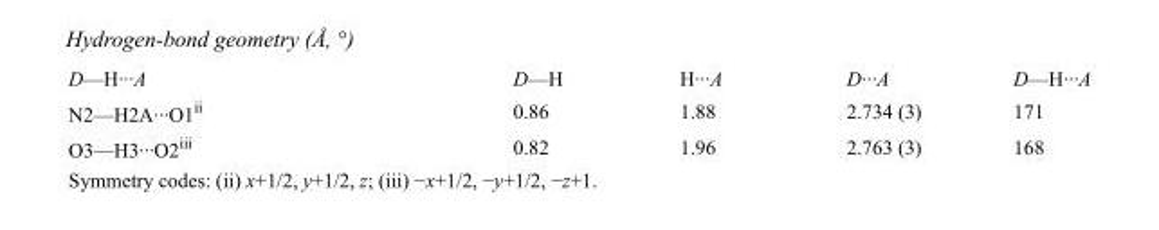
<table><tbody><tr><td>D—H···A</td><td>D—H</td><td>H···A</td><td>D···A</td><td>D—H···A</td></tr><tr><td>N2—H2A···O1<sup>ii</sup></td><td>0.86</td><td>1.88</td><td>2.734 (3)</td><td>171</td></tr><tr><td>O3—H3···O2<sup>iii</sup></td><td>0.82</td><td>1.96</td><td>2.763 (3)</td><td>168</td></tr></tbody></table>